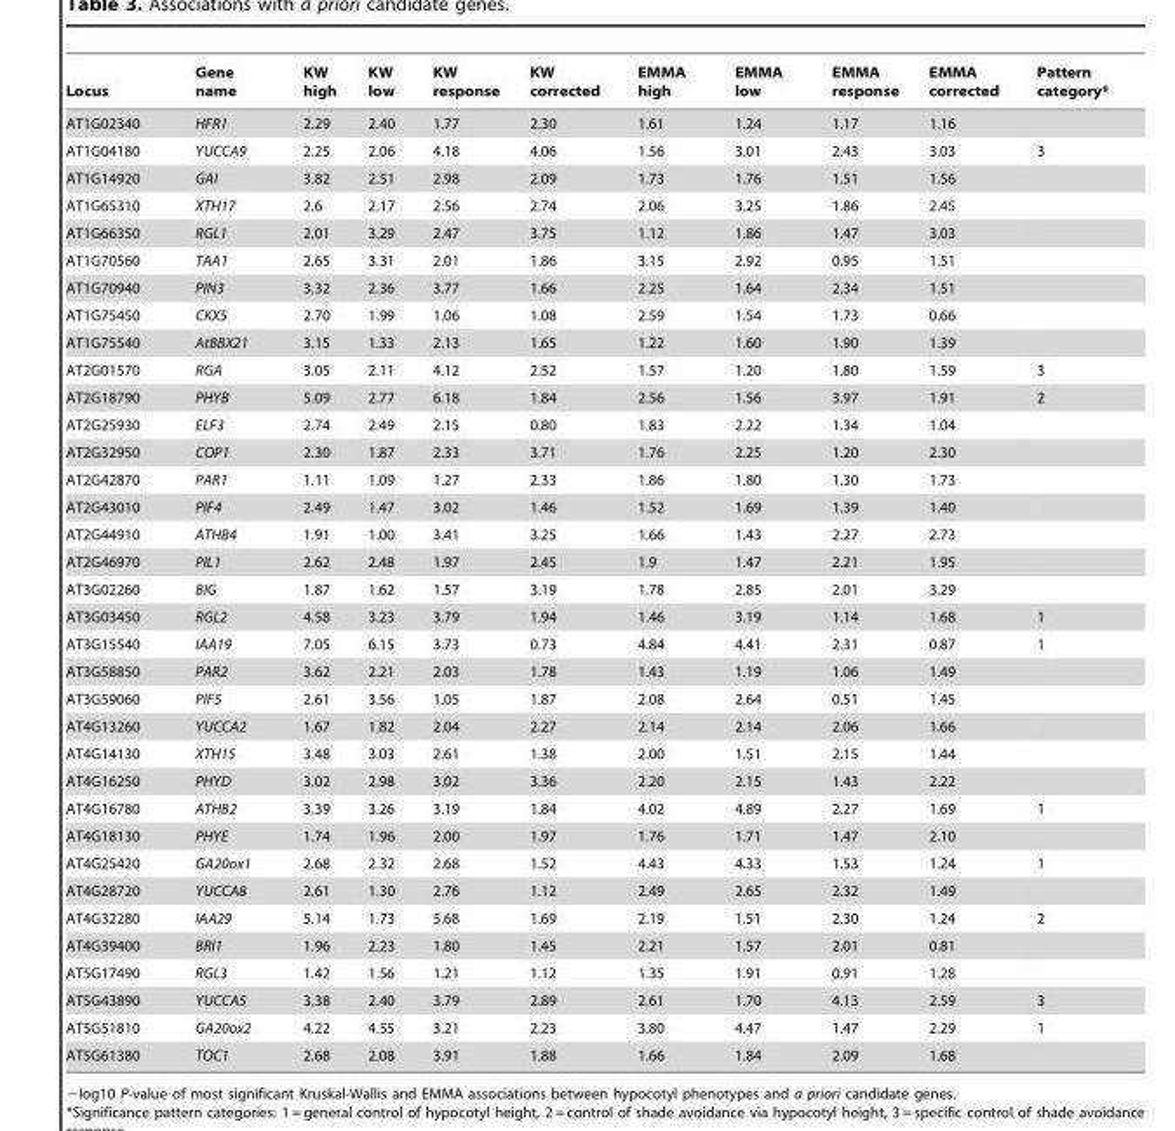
<table><thead><tr><td>Locus</td><td>Gene name</td><td>KW high</td><td>KW low</td><td>KW response</td><td>KW corrected</td><td>EMMA high</td><td>EMMA low</td><td>EMMA response</td><td>EMMA corrected</td><td>Pattern category*</td></tr></thead><tbody><tr><td>AT1G02340</td><td>HFR1</td><td>2.29</td><td>2.40</td><td>1.77</td><td>2.30</td><td>1.61</td><td>1.24</td><td>1.17</td><td>1.16</td><td></td></tr><tr><td>AT1G04180</td><td>YUCCA9</td><td>2.25</td><td>2.06</td><td>4.18</td><td>4.06</td><td>1.56</td><td>3.01</td><td>2.43</td><td>3.03</td><td>3</td></tr><tr><td>AT1G14920</td><td>GAI</td><td>3.82</td><td>2.51</td><td>2.98</td><td>2.09</td><td>1.73</td><td>1.76</td><td>1.51</td><td>1.56</td><td></td></tr><tr><td>AT1G65310</td><td>XTH17</td><td>2.6</td><td>2.17</td><td>2.56</td><td>2.74</td><td>2.06</td><td>3.25</td><td>1.86</td><td>2.45</td><td></td></tr><tr><td>AT1G66350</td><td>RGL1</td><td>2.01</td><td>3.29</td><td>2.47</td><td>3.75</td><td>1.12</td><td>1.86</td><td>1.47</td><td>3.03</td><td></td></tr><tr><td>AT1G70560</td><td>TAA1</td><td>2.65</td><td>3.31</td><td>2.01</td><td>1.86</td><td>3.15</td><td>2.92</td><td>0.95</td><td>1.51</td><td></td></tr><tr><td>AT1G70940</td><td>PIN3</td><td>3.32</td><td>2.36</td><td>3.77</td><td>1.66</td><td>2.25</td><td>1.64</td><td>2.34</td><td>1.51</td><td></td></tr><tr><td>AT1G75450</td><td>CKX5</td><td>2.70</td><td>1.99</td><td>1.06</td><td>1.08</td><td>2.59</td><td>1.54</td><td>1.73</td><td>0.66</td><td></td></tr><tr><td>AT1G75540</td><td>AtBBX21</td><td>3.15</td><td>1.33</td><td>2.13</td><td>1.65</td><td>1.22</td><td>1.60</td><td>1.90</td><td>1.39</td><td></td></tr><tr><td>AT2G01570</td><td>RGA</td><td>3.05</td><td>2.11</td><td>4.12</td><td>2.52</td><td>1.57</td><td>1.20</td><td>1.80</td><td>1.59</td><td>3</td></tr><tr><td>AT2G18790</td><td>PHYB</td><td>5.09</td><td>2.77</td><td>6.18</td><td>1.84</td><td>2.56</td><td>1.56</td><td>3.97</td><td>1.91</td><td>2</td></tr><tr><td>AT2G25930</td><td>ELF3</td><td>2.74</td><td>2.49</td><td>2.15</td><td>0.80</td><td>1.83</td><td>2.22</td><td>1.34</td><td>1.04</td><td></td></tr><tr><td>AT2G32950</td><td>COP1</td><td>2.30</td><td>1.87</td><td>2.33</td><td>3.71</td><td>1.76</td><td>2.25</td><td>1.20</td><td>2.30</td><td></td></tr><tr><td>AT2G42870</td><td>PAR1</td><td>1.11</td><td>1.09</td><td>1.27</td><td>2.33</td><td>1.86</td><td>1.80</td><td>1.30</td><td>1.73</td><td></td></tr><tr><td>AT2G43010</td><td>PIF4</td><td>2.49</td><td>1.47</td><td>3.02</td><td>1.46</td><td>1.52</td><td>1.69</td><td>1.39</td><td>1.40</td><td></td></tr><tr><td>AT2G44910</td><td>ATHB4</td><td>1.91</td><td>1.00</td><td>3.41</td><td>3.25</td><td>1.66</td><td>1.43</td><td>2.27</td><td>2.73</td><td></td></tr><tr><td>AT2G46970</td><td>PIL1</td><td>2.62</td><td>2.48</td><td>1.97</td><td>2.45</td><td>1.9</td><td>1.47</td><td>2.21</td><td>1.95</td><td></td></tr><tr><td>AT3G02260</td><td>BIG</td><td>1.87</td><td>1.62</td><td>1.57</td><td>3.19</td><td>1.78</td><td>2.85</td><td>2.01</td><td>3.29</td><td></td></tr><tr><td>AT3G03450</td><td>RGL2</td><td>4.58</td><td>3.23</td><td>3.79</td><td>1.94</td><td>1.46</td><td>3.19</td><td>1.14</td><td>1.68</td><td>1</td></tr><tr><td>AT3G15540</td><td>IAA19</td><td>7.05</td><td>6.15</td><td>3.73</td><td>0.73</td><td>4.84</td><td>4.41</td><td>2.31</td><td>0.87</td><td>1</td></tr><tr><td>AT3G58850</td><td>PAR2</td><td>3.62</td><td>2.21</td><td>2.03</td><td>1.78</td><td>1.43</td><td>1.19</td><td>1.06</td><td>1.49</td><td></td></tr><tr><td>AT3G59060</td><td>PIF5</td><td>2.61</td><td>3.56</td><td>1.05</td><td>1.87</td><td>2.08</td><td>2.64</td><td>0.51</td><td>1.45</td><td></td></tr><tr><td>AT4G13260</td><td>YUCCA2</td><td>1.67</td><td>1.82</td><td>2.04</td><td>2.27</td><td>2.14</td><td>2.14</td><td>2.06</td><td>1.66</td><td></td></tr><tr><td>AT4G14130</td><td>XTH15</td><td>3.48</td><td>3.03</td><td>2.61</td><td>1.38</td><td>2.00</td><td>1.51</td><td>2.15</td><td>1.44</td><td></td></tr><tr><td>AT4G16250</td><td>PHYD</td><td>3.02</td><td>2.98</td><td>3.02</td><td>3.36</td><td>2.20</td><td>2.15</td><td>1.43</td><td>2.22</td><td></td></tr><tr><td>AT4G16780</td><td>ATHB2</td><td>3.39</td><td>3.26</td><td>3.19</td><td>1.84</td><td>4.02</td><td>4.89</td><td>2.27</td><td>1.69</td><td>1</td></tr><tr><td>AT4G18130</td><td>PHYE</td><td>1.74</td><td>1.96</td><td>2.00</td><td>1.97</td><td>1.76</td><td>1.71</td><td>1.47</td><td>2.10</td><td></td></tr><tr><td>AT4G25420</td><td>GA20ox1</td><td>2.68</td><td>2.32</td><td>2.68</td><td>1.52</td><td>4.43</td><td>4.33</td><td>1.53</td><td>1.24</td><td>1</td></tr><tr><td>AT4G28720</td><td>YUCCA8</td><td>2.61</td><td>1.30</td><td>2.76</td><td>1.12</td><td>2.49</td><td>2.65</td><td>2.32</td><td>1.49</td><td></td></tr><tr><td>AT4G32280</td><td>IAA29</td><td>5.14</td><td>1.73</td><td>5.68</td><td>1.69</td><td>2.19</td><td>1.51</td><td>2.30</td><td>1.24</td><td>2</td></tr><tr><td>AT4G39400</td><td>BRI1</td><td>1.96</td><td>2.23</td><td>1.80</td><td>1.45</td><td>2.21</td><td>1.57</td><td>2.01</td><td>0.81</td><td></td></tr><tr><td>AT5G17490</td><td>RGL3</td><td>1.42</td><td>1.56</td><td>1.21</td><td>1.12</td><td>1.35</td><td>1.91</td><td>0.91</td><td>1.28</td><td></td></tr><tr><td>AT5G43890</td><td>YUCCA5</td><td>3.38</td><td>2.40</td><td>3.79</td><td>2.89</td><td>2.61</td><td>1.70</td><td>4.13</td><td>2.59</td><td>3</td></tr><tr><td>AT5G51810</td><td>GA20ox2</td><td>4.22</td><td>4.55</td><td>3.21</td><td>2.23</td><td>3.80</td><td>4.47</td><td>1.47</td><td>2.29</td><td>1</td></tr><tr><td>AT5G61380</td><td>TOC1</td><td>2.68</td><td>2.08</td><td>3.91</td><td>1.88</td><td>1.66</td><td>1.84</td><td>2.09</td><td>1.68</td><td></td></tr></tbody></table>